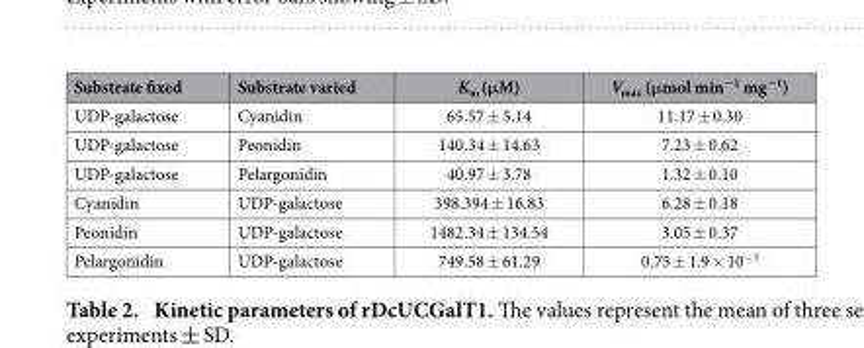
<table><thead><tr><td>Substrate fixed</td><td>Substrate varied</td><td>K<sub>m</sub> (μM)</td><td>V<sub>max</sub> (μmol min<sup>−1</sup> mg<sup>−1</sup>)</td></tr></thead><tbody><tr><td>UDP-galactose</td><td>Cyanidin</td><td>65.57 ± 5.14</td><td>11.17 ± 0.30</td></tr><tr><td>UDP-galactose</td><td>Peonidin</td><td>140.34 ± 14.63</td><td>7.23 ± 0.62</td></tr><tr><td>UDP-galactose</td><td>Pelargonidin</td><td>40.97 ± 3.78</td><td>1.32 ± 0.10</td></tr><tr><td>Cyanidin</td><td>UDP-galactose</td><td>398.394 ± 16.83</td><td>6.28 ± 0.18</td></tr><tr><td>Peonidin</td><td>UDP-galactose</td><td>1482.34 ± 134.54</td><td>3.05 ± 0.37</td></tr><tr><td>Pelargonidin</td><td>UDP-galactose</td><td>749.58 ± 61.29</td><td>0.75 ± 1.9 × 10<sup>−3</sup></td></tr></tbody></table>